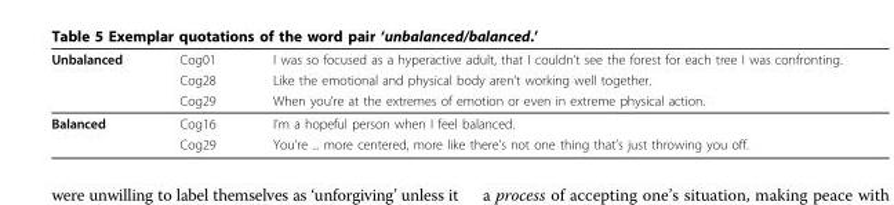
<table><thead><tr><td rowspan="3">Unbalanced</td><td rowspan="3">Cog01 Cog28 Cog29</td><td rowspan="3">I was so focused as a hyperactive adult, that I couldn’t see the forest for each tree I was confronting. Like the emotional and physical body aren’t working well together. When you’re at the extremes of emotion or even in extreme physical action.</td></tr><tr></tr><tr></tr></thead><tbody><tr><td rowspan="2">Balanced</td><td>Cog16</td><td>I’m a hopeful person when I feel balanced.</td></tr><tr><td>Cog29</td><td>You’re ... more centered, more like there’s not one thing that’s just throwing you off.</td></tr></tbody></table>